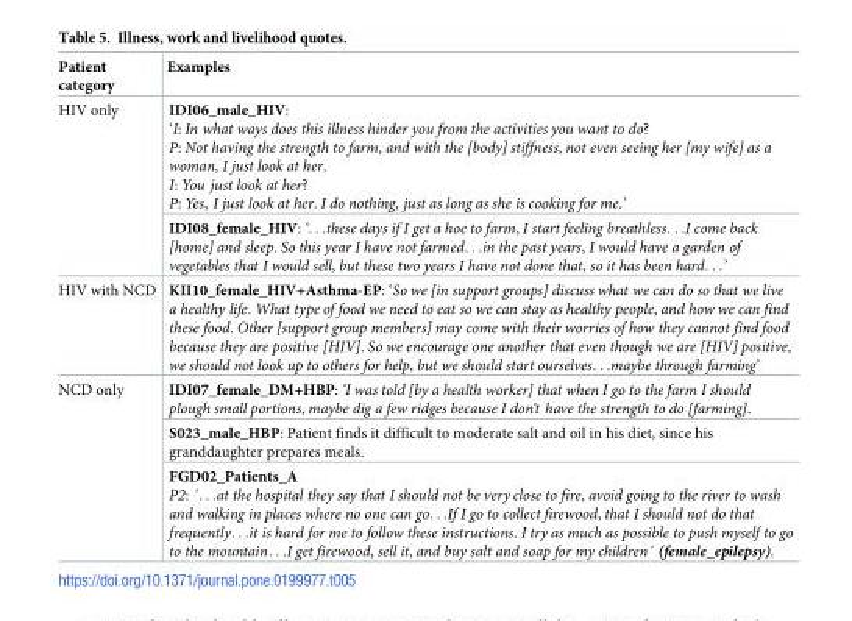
<table><thead><tr><td>Patient category</td><td>Examples</td></tr></thead><tbody><tr><td rowspan="2">HIV only</td><td>IDI06_male_HIV: ‘I: In what ways does this illness hinder you from the activities you want to do? P: Not having the strength to farm, and with the [body] stiffness, not even seeing her [my wife] as a woman, I just look at her. I: You just look at her? P: Yes, I just look at her. I do nothing, just as long as she is cooking for me.’</td></tr><tr><td>IDI08_female_HIV: ‘. . .these days if I get a hoe to farm, I start feeling breathless. . .I come back [home] and sleep. So this year I have not farmed. . .in the past years, I would have a garden of vegetables that I would sell, but these two years I have not done that, so it has been hard. . .’</td></tr><tr><td>HIV with NCD</td><td>KII10_female_HIV+Asthma-EP: ‘So we [in support groups] discuss what we can do so that we live a healthy life. What type of food we need to eat so we can stay as healthy people, and how we can find these food. Other [support group members] may come with their worries of how they cannot find food because they are positive [HIV]. So we encourage one another that even though we are [HIV] positive, we should not look up to others for help, but we should start ourselves. . .maybe through farming’</td></tr><tr><td rowspan="3">NCD only</td><td>IDI07_female_DM+HBP: ‘I was told [by a health worker] that when I go to the farm I should plough small portions, maybe dig a few ridges because I don’t have the strength to do [farming].</td></tr><tr><td>S023_male_HBP: Patient finds it difficult to moderate salt and oil in his diet, since his granddaughter prepares meals.</td></tr><tr><td>FGD02_Patients_A P2: ´. . .at the hospital they say that I should not be very close to fire, avoid going to the river to wash and walking in places where no one can go. . .If I go to collect firewood, that I should not do that frequently. . .it is hard for me to follow these instructions. I try as much as possible to push myself to go to the mountain. . .I get firewood, sell it, and buy salt and soap for my children´ (female_epilepsy).</td></tr></tbody></table>